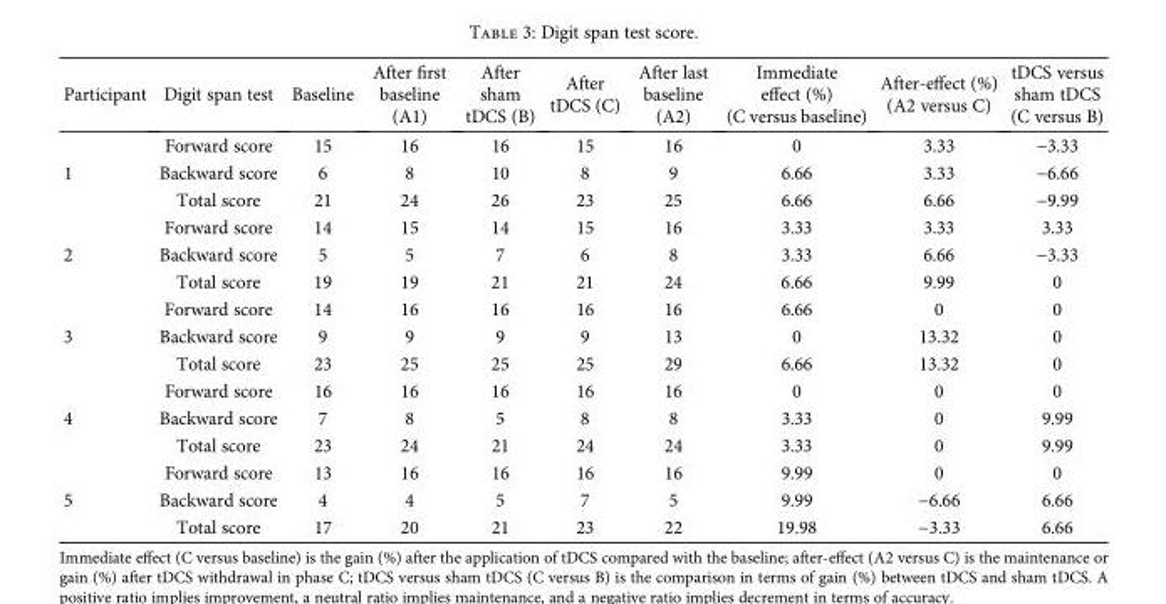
<table><thead><tr><td>Participant</td><td>Digit span test</td><td>Baseline</td><td>After first baseline (A1)</td><td>After sham tDCS (B)</td><td>After tDCS (C)</td><td>After last baseline (A2)</td><td>Immediate effect (%) (C versus baseline)</td><td>After-effect (%) (A2 versus C)</td><td>tDCS versus sham tDCS (C versus B)</td></tr></thead><tbody><tr><td rowspan="3">1</td><td>Forward score</td><td>15</td><td>16</td><td>16</td><td>15</td><td>16</td><td>0</td><td>3.33</td><td>−3.33</td></tr><tr><td>Backward score</td><td>6</td><td>8</td><td>10</td><td>8</td><td>9</td><td>6.66</td><td>3.33</td><td>−6.66</td></tr><tr><td>Total score</td><td>21</td><td>24</td><td>26</td><td>23</td><td>25</td><td>6.66</td><td>6.66</td><td>−9.99</td></tr><tr><td rowspan="3">2</td><td>Forward score</td><td>14</td><td>15</td><td>14</td><td>15</td><td>16</td><td>3.33</td><td>3.33</td><td>3.33</td></tr><tr><td>Backward score</td><td>5</td><td>5</td><td>7</td><td>6</td><td>8</td><td>3.33</td><td>6.66</td><td>−3.33</td></tr><tr><td>Total score</td><td>19</td><td>19</td><td>21</td><td>21</td><td>24</td><td>6.66</td><td>9.99</td><td>0</td></tr><tr><td rowspan="3">3</td><td>Forward score</td><td>14</td><td>16</td><td>16</td><td>16</td><td>16</td><td>6.66</td><td>0</td><td>0</td></tr><tr><td>Backward score</td><td>9</td><td>9</td><td>9</td><td>9</td><td>13</td><td>0</td><td>13.32</td><td>0</td></tr><tr><td>Total score</td><td>23</td><td>25</td><td>25</td><td>25</td><td>29</td><td>6.66</td><td>13.32</td><td>0</td></tr><tr><td rowspan="3">4</td><td>Forward score</td><td>16</td><td>16</td><td>16</td><td>16</td><td>16</td><td>0</td><td>0</td><td>0</td></tr><tr><td>Backward score</td><td>7</td><td>8</td><td>5</td><td>8</td><td>8</td><td>3.33</td><td>0</td><td>9.99</td></tr><tr><td>Total score</td><td>23</td><td>24</td><td>21</td><td>24</td><td>24</td><td>3.33</td><td>0</td><td>9.99</td></tr><tr><td rowspan="3">5</td><td>Forward score</td><td>13</td><td>16</td><td>16</td><td>16</td><td>16</td><td>9.99</td><td>0</td><td>0</td></tr><tr><td>Backward score</td><td>4</td><td>4</td><td>5</td><td>7</td><td>5</td><td>9.99</td><td>−6.66</td><td>6.66</td></tr><tr><td>Total score</td><td>17</td><td>20</td><td>21</td><td>23</td><td>22</td><td>19.98</td><td>−3.33</td><td>6.66</td></tr></tbody></table>